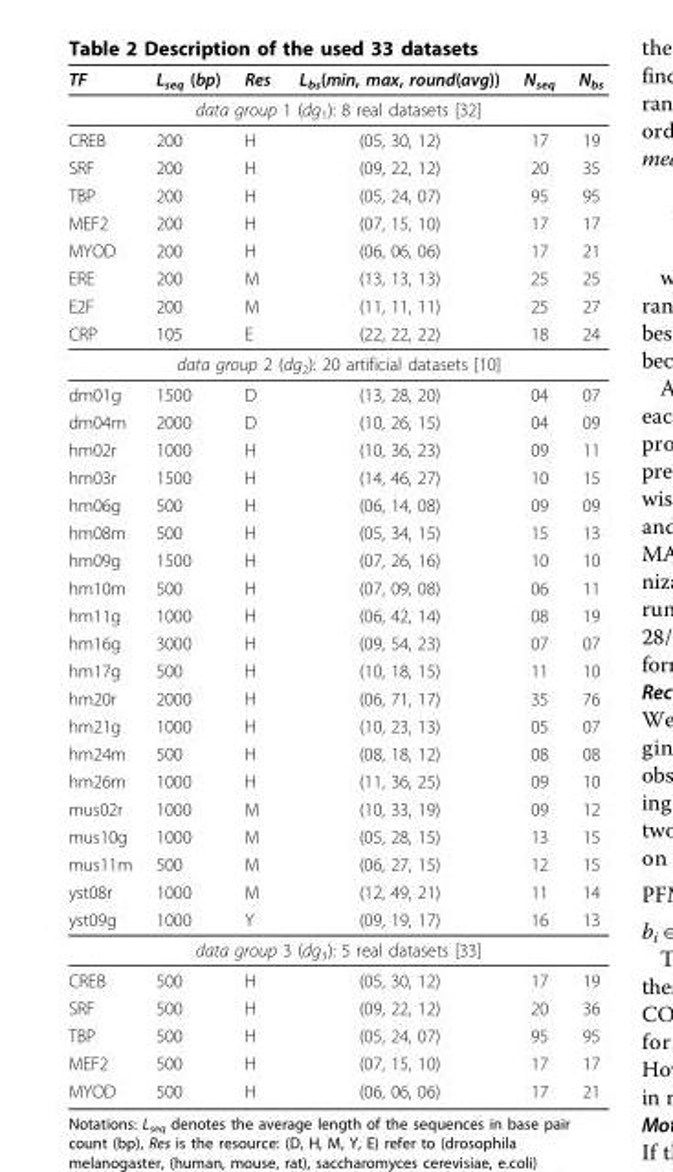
<table><thead><tr><td>TF</td><td>L<sub>seq</sub> (bp)</td><td>Res</td><td>L<sub>bs</sub>(min, max, round(avg))</td><td>N<sub>seq</sub></td><td>N<sub>bs</sub></td></tr></thead><tbody><tr><td colspan="6">data group 1 (dg<sub>1</sub>): 8 real datasets [32]</td></tr><tr><td>CREB</td><td>200</td><td>H</td><td>(05, 30, 12)</td><td>17</td><td>19</td></tr><tr><td>SRF</td><td>200</td><td>H</td><td>(09, 22, 12)</td><td>20</td><td>35</td></tr><tr><td>TBP</td><td>200</td><td>H</td><td>(05, 24, 07)</td><td>95</td><td>95</td></tr><tr><td>MEF2</td><td>200</td><td>H</td><td>(07, 15, 10)</td><td>17</td><td>17</td></tr><tr><td>MYOD</td><td>200</td><td>H</td><td>(06, 06, 06)</td><td>17</td><td>21</td></tr><tr><td>ERE</td><td>200</td><td>M</td><td>(13, 13, 13)</td><td>25</td><td>25</td></tr><tr><td>E2F</td><td>200</td><td>M</td><td>(11, 11, 11)</td><td>25</td><td>27</td></tr><tr><td>CRP</td><td>105</td><td>E</td><td>(22, 22, 22)</td><td>18</td><td>24</td></tr><tr><td colspan="6">data group 2 (dg<sub>2</sub>): 20 artificial datasets [10]</td></tr><tr><td>dm01g</td><td>1500</td><td>D</td><td>(13, 28, 20)</td><td>04</td><td>07</td></tr><tr><td>dm04m</td><td>2000</td><td>D</td><td>(10, 26, 15)</td><td>04</td><td>09</td></tr><tr><td>hm02r</td><td>1000</td><td>H</td><td>(10, 36, 23)</td><td>09</td><td>11</td></tr><tr><td>hm03r</td><td>1500</td><td>H</td><td>(14, 46, 27)</td><td>10</td><td>15</td></tr><tr><td>hm06g</td><td>500</td><td>H</td><td>(06, 14, 08)</td><td>09</td><td>09</td></tr><tr><td>hm08m</td><td>500</td><td>H</td><td>(05, 34, 15)</td><td>15</td><td>13</td></tr><tr><td>hm09g</td><td>1500</td><td>H</td><td>(07, 26, 16)</td><td>10</td><td>10</td></tr><tr><td>hm10m</td><td>500</td><td>H</td><td>(07, 09, 08)</td><td>06</td><td>11</td></tr><tr><td>hm11g</td><td>1000</td><td>H</td><td>(06, 42, 14)</td><td>08</td><td>19</td></tr><tr><td>hm16g</td><td>3000</td><td>H</td><td>(09, 54, 23)</td><td>07</td><td>07</td></tr><tr><td>hm17g</td><td>500</td><td>H</td><td>(10, 18, 15)</td><td>11</td><td>10</td></tr><tr><td>hm20r</td><td>2000</td><td>H</td><td>(06, 71, 17)</td><td>35</td><td>76</td></tr><tr><td>hm21g</td><td>1000</td><td>H</td><td>(10, 23, 13)</td><td>05</td><td>07</td></tr><tr><td>hm24m</td><td>500</td><td>H</td><td>(08, 18, 12)</td><td>08</td><td>08</td></tr><tr><td>hm26m</td><td>1000</td><td>H</td><td>(11, 36, 25)</td><td>09</td><td>10</td></tr><tr><td>mus02r</td><td>1000</td><td>M</td><td>(10, 33, 19)</td><td>09</td><td>12</td></tr><tr><td>mus10g</td><td>1000</td><td>M</td><td>(05, 28, 15)</td><td>13</td><td>15</td></tr><tr><td>mus11m</td><td>500</td><td>M</td><td>(06, 27, 15)</td><td>12</td><td>15</td></tr><tr><td>yst08r</td><td>1000</td><td>M</td><td>(12, 49, 21)</td><td>11</td><td>14</td></tr><tr><td>yst09g</td><td>1000</td><td>Y</td><td>(09, 19, 17)</td><td>16</td><td>13</td></tr><tr><td colspan="6">data group 3 (dg<sub>3</sub>): 5 real datasets [33]</td></tr><tr><td>CREB</td><td>500</td><td>H</td><td>(05, 30, 12)</td><td>17</td><td>19</td></tr><tr><td>SRF</td><td>500</td><td>H</td><td>(09, 22, 12)</td><td>20</td><td>36</td></tr><tr><td>TBP</td><td>500</td><td>H</td><td>(05, 24, 07)</td><td>95</td><td>95</td></tr><tr><td>MEF2</td><td>500</td><td>H</td><td>(07, 15, 10)</td><td>17</td><td>17</td></tr><tr><td>MYOD</td><td>500</td><td>H</td><td>(06, 06, 06)</td><td>17</td><td>21</td></tr></tbody></table>